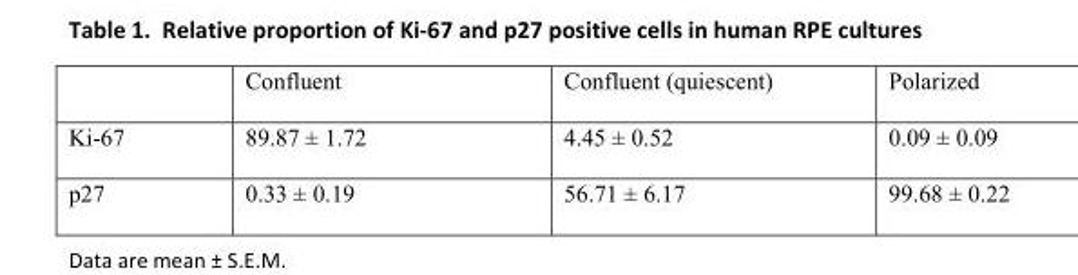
<table><thead><tr><td></td><td>Confluent</td><td>Confluent (quiescent)</td><td>Polarized</td></tr></thead><tbody><tr><td>Ki-67</td><td>89.87 ± 1.72</td><td>4.45 ± 0.52</td><td>0.09 ± 0.09</td></tr><tr><td>p27</td><td>0.33 ± 0.19</td><td>56.71 ± 6.17</td><td>99.68 ± 0.22</td></tr></tbody></table>